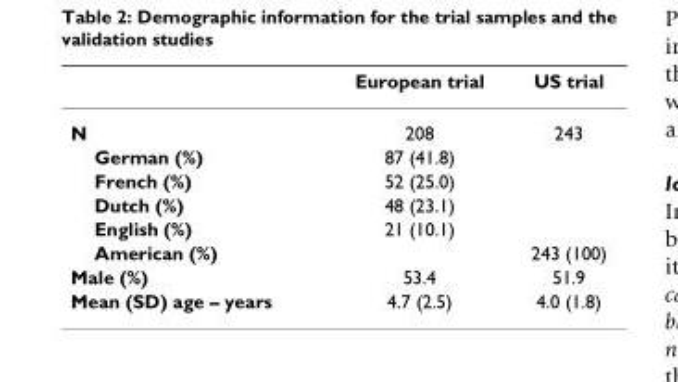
<table><thead><tr><td></td><td>European trial</td><td>US trial</td></tr></thead><tbody><tr><td>N</td><td>208</td><td>243</td></tr><tr><td>German (%)</td><td>87 (41.8)</td><td></td></tr><tr><td>French (%)</td><td>52 (25.0)</td><td></td></tr><tr><td>Dutch (%)</td><td>48 (23.1)</td><td></td></tr><tr><td>English (%)</td><td>21 (10.1)</td><td></td></tr><tr><td>American (%)</td><td></td><td>243 (100)</td></tr><tr><td>Male (%)</td><td>53.4</td><td>51.9</td></tr><tr><td>Mean (SD) age – years</td><td>4.7 (2.5)</td><td>4.0 (1.8)</td></tr></tbody></table>